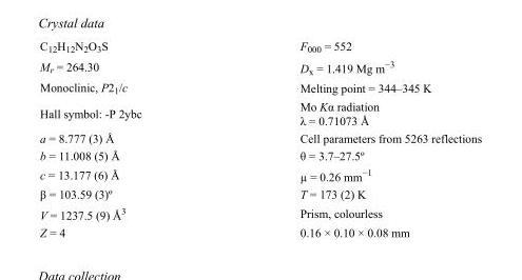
<table><tbody><tr><td>C<sub>12</sub>H<sub>12</sub>N<sub>2</sub>O<sub>3</sub>S</td><td>F<sub>000</sub> = 552</td></tr><tr><td>M<sub>r</sub> = 264.30</td><td>D<sub>x</sub> = 1.419 Mg m<sup>−3</sup></td></tr><tr><td>Monoclinic, P2<sub>1</sub>/c</td><td>Melting point = 344–345 K</td></tr><tr><td>Hall symbol: -P 2ybc</td><td>Mo Kα radiation λ = 0.71073 Å</td></tr><tr><td>a = 8.777 (3) Å</td><td>Cell parameters from 5263 reflections</td></tr><tr><td>b = 11.008 (5) Å</td><td>θ = 3.7–27.5º</td></tr><tr><td>c = 13.177 (6) Å</td><td>µ = 0.26 mm<sup>−1</sup></td></tr><tr><td>β = 103.59 (3)º</td><td>T = 173 (2) K</td></tr><tr><td>V = 1237.5 (9) Å<sup>3</sup></td><td>Prism, colourless</td></tr><tr><td>Z = 4</td><td>0.16 × 0.10 × 0.08 mm</td></tr></tbody></table>